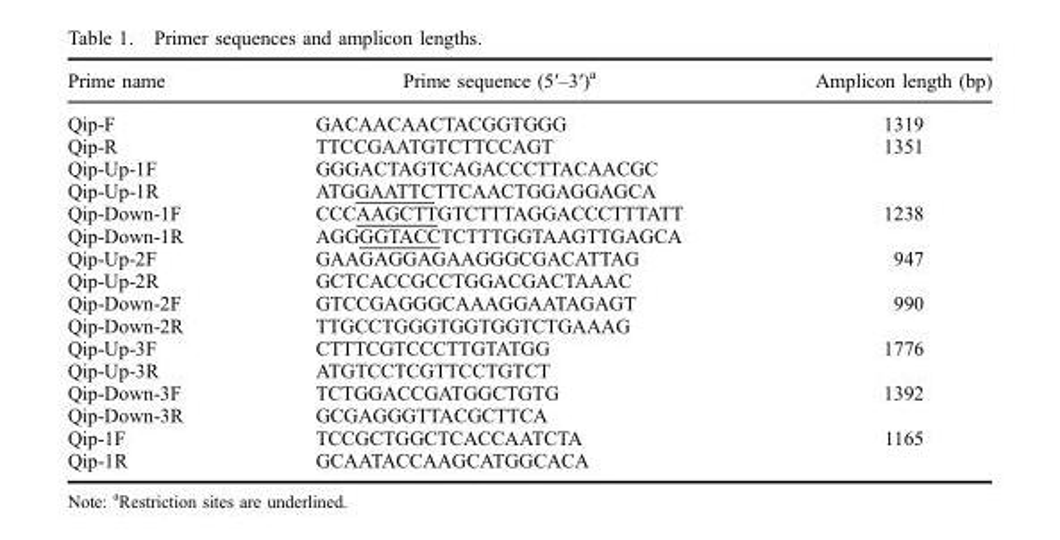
<table><thead><tr><td>Prime name</td><td>Prime sequence (5′–3′)<sup>a</sup></td><td>Amplicon length (bp)</td></tr></thead><tbody><tr><td>Qip-F</td><td>GACAACAACTACGGTGGG</td><td>1319</td></tr><tr><td>Qip-R</td><td>TTCCGAATGTCTTCCAGT</td><td>1351</td></tr><tr><td>Qip-Up-1F</td><td>GGGACTAGTCAGACCCTTACAACGC</td><td></td></tr><tr><td>Qip-Up-1R</td><td>ATGGAATTCTTCAACTGGAGGAGCA</td><td></td></tr><tr><td>Qip-Down-1F</td><td>CCCAAGCTTGTCTTTAGGACCCTTTATT</td><td>1238</td></tr><tr><td>Qip-Down-1R</td><td>AGGGGTACCTCTTTGGTAAGTTGAGCA</td><td></td></tr><tr><td>Qip-Up-2F</td><td>GAAGAGGAGAAGGGCGACATTAG</td><td>947</td></tr><tr><td>Qip-Up-2R</td><td>GCTCACCGCCTGGACGACTAAAC</td><td></td></tr><tr><td>Qip-Down-2F</td><td>GTCCGAGGGCAAAGGAATAGAGT</td><td>990</td></tr><tr><td>Qip-Down-2R</td><td>TTGCCTGGGTGGTGGTCTGAAAG</td><td></td></tr><tr><td>Qip-Up-3F</td><td>CTTTCGTCCCTTGTATGG</td><td>1776</td></tr><tr><td>Qip-Up-3R</td><td>ATGTCCTCGTTCCTGTCT</td><td></td></tr><tr><td>Qip-Down-3F</td><td>TCTGGACCGATGGCTGTG</td><td>1392</td></tr><tr><td>Qip-Down-3R</td><td>GCGAGGGTTACGCTTCA</td><td></td></tr><tr><td>Qip-1F</td><td>TCCGCTGGCTCACCAATCTA</td><td>1165</td></tr><tr><td>Qip-1R</td><td>GCAATACCAAGCATGGCACA</td><td></td></tr></tbody></table>